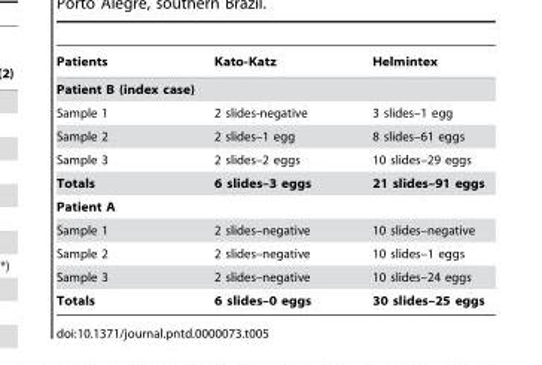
<table><thead><tr><td>Patients</td><td>Kato-Katz</td><td>Helmintex</td></tr></thead><tbody><tr><td colspan="3">Patient B (index case)</td></tr><tr><td>Sample 1</td><td>2 slides-negative</td><td>3 slides–1 egg</td></tr><tr><td>Sample 2</td><td>2 slides–1 egg</td><td>8 slides–61 eggs</td></tr><tr><td>Sample 3</td><td>2 slides–2 eggs</td><td>10 slides–29 eggs</td></tr><tr><td>Totals</td><td>6 slides–3 eggs</td><td>21 slides–91 eggs</td></tr><tr><td colspan="3">Patient A</td></tr><tr><td>Sample 1</td><td>2 slides–negative</td><td>10 slides–negative</td></tr><tr><td>Sample 2</td><td>2 slides–negative</td><td>10 slides–1 eggs</td></tr><tr><td>Sample 3</td><td>2 slides–negative</td><td>10 slides–24 eggs</td></tr><tr><td>Totals</td><td>6 slides–0 eggs</td><td>30 slides–25 eggs</td></tr></tbody></table>